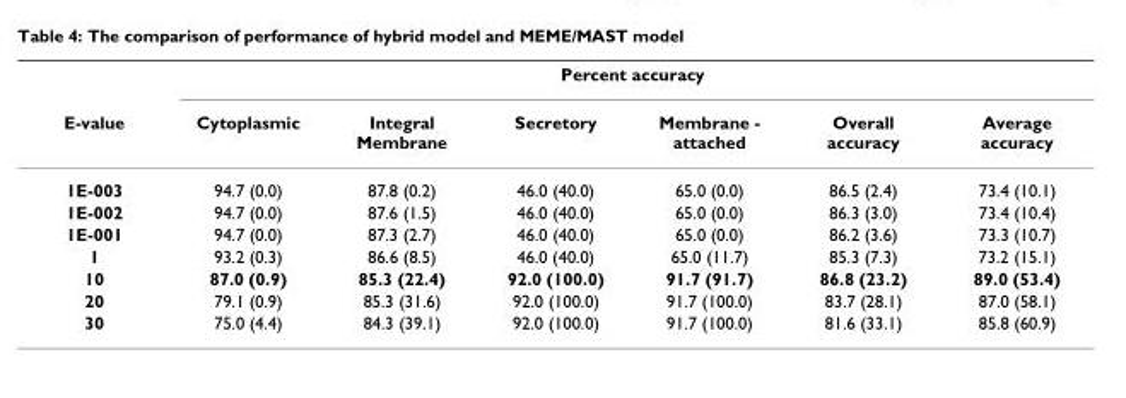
<table><thead><tr><td rowspan="2">E-value</td><td colspan="6">Percent accuracy</td></tr><tr><td>Cytoplasmic</td><td>Integral Membrane</td><td>Secretory</td><td>Membrane - attached</td><td>Overall accuracy</td><td>Average accuracy</td></tr></thead><tbody><tr><td>1E-003</td><td>94.7 (0.0)</td><td>87.8 (0.2)</td><td>46.0 (40.0)</td><td>65.0 (0.0)</td><td>86.5 (2.4)</td><td>73.4 (10.1)</td></tr><tr><td>1E-002</td><td>94.7 (0.0)</td><td>87.6 (1.5)</td><td>46.0 (40.0)</td><td>65.0 (0.0)</td><td>86.3 (3.0)</td><td>73.4 (10.4)</td></tr><tr><td>1E-001</td><td>94.7 (0.0)</td><td>87.3 (2.7)</td><td>46.0 (40.0)</td><td>65.0 (0.0)</td><td>86.2 (3.6)</td><td>73.3 (10.7)</td></tr><tr><td>1</td><td>93.2 (0.3)</td><td>86.6 (8.5)</td><td>46.0 (40.0)</td><td>65.0 (11.7)</td><td>85.3 (7.3)</td><td>73.2 (15.1)</td></tr><tr><td>10</td><td>87.0 (0.9)</td><td>85.3 (22.4)</td><td>92.0 (100.0)</td><td>91.7 (91.7)</td><td>86.8 (23.2)</td><td>89.0 (53.4)</td></tr><tr><td>20</td><td>79.1 (0.9)</td><td>85.3 (31.6)</td><td>92.0 (100.0)</td><td>91.7 (100.0)</td><td>83.7 (28.1)</td><td>87.0 (58.1)</td></tr><tr><td>30</td><td>75.0 (4.4)</td><td>84.3 (39.1)</td><td>92.0 (100.0)</td><td>91.7 (100.0)</td><td>81.6 (33.1)</td><td>85.8 (60.9)</td></tr></tbody></table>